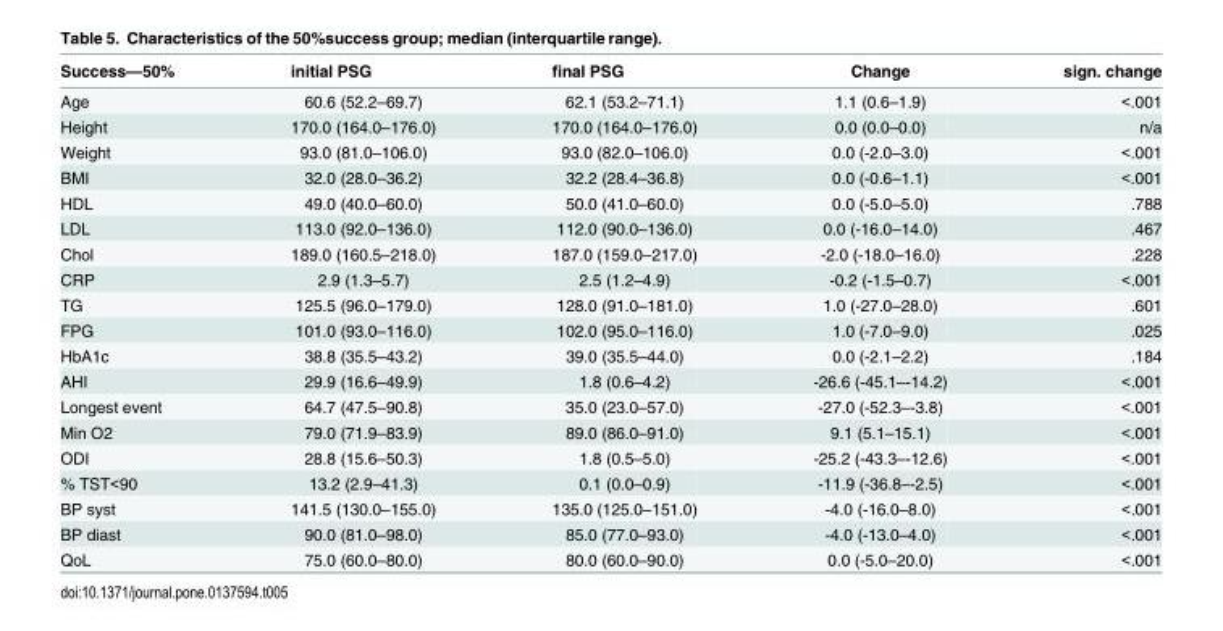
<table><thead><tr><td>Success—50%</td><td>initial PSG</td><td>final PSG</td><td>Change</td><td>sign. change</td></tr></thead><tbody><tr><td>Age</td><td>60.6 (52.2–69.7)</td><td>62.1 (53.2–71.1)</td><td>1.1 (0.6–1.9)</td><td>&lt;.001</td></tr><tr><td>Height</td><td>170.0 (164.0–176.0)</td><td>170.0 (164.0–176.0)</td><td>0.0 (0.0–0.0)</td><td>n/a</td></tr><tr><td>Weight</td><td>93.0 (81.0–106.0)</td><td>93.0 (82.0–106.0)</td><td>0.0 (-2.0–3.0)</td><td>&lt;.001</td></tr><tr><td>BMI</td><td>32.0 (28.0–36.2)</td><td>32.2 (28.4–36.8)</td><td>0.0 (-0.6–1.1)</td><td>&lt;.001</td></tr><tr><td>HDL</td><td>49.0 (40.0–60.0)</td><td>50.0 (41.0–60.0)</td><td>0.0 (-5.0–5.0)</td><td>.788</td></tr><tr><td>LDL</td><td>113.0 (92.0–136.0)</td><td>112.0 (90.0–136.0)</td><td>0.0 (-16.0–14.0)</td><td>.467</td></tr><tr><td>Chol</td><td>189.0 (160.5–218.0)</td><td>187.0 (159.0–217.0)</td><td>-2.0 (-18.0–16.0)</td><td>.228</td></tr><tr><td>CRP</td><td>2.9 (1.3–5.7)</td><td>2.5 (1.2–4.9)</td><td>-0.2 (-1.5–0.7)</td><td>&lt;.001</td></tr><tr><td>TG</td><td>125.5 (96.0–179.0)</td><td>128.0 (91.0–181.0)</td><td>1.0 (-27.0–28.0)</td><td>.601</td></tr><tr><td>FPG</td><td>101.0 (93.0–116.0)</td><td>102.0 (95.0–116.0)</td><td>1.0 (-7.0–9.0)</td><td>.025</td></tr><tr><td>HbA1c</td><td>38.8 (35.5–43.2)</td><td>39.0 (35.5–44.0)</td><td>0.0 (-2.1–2.2)</td><td>.184</td></tr><tr><td>AHI</td><td>29.9 (16.6–49.9)</td><td>1.8 (0.6–4.2)</td><td>-26.6 (-45.1–-14.2)</td><td>&lt;.001</td></tr><tr><td>Longest event</td><td>64.7 (47.5–90.8)</td><td>35.0 (23.0–57.0)</td><td>-27.0 (-52.3–-3.8)</td><td>&lt;.001</td></tr><tr><td>Min O2</td><td>79.0 (71.9–83.9)</td><td>89.0 (86.0–91.0)</td><td>9.1 (5.1–15.1)</td><td>&lt;.001</td></tr><tr><td>ODI</td><td>28.8 (15.6–50.3)</td><td>1.8 (0.5–5.0)</td><td>-25.2 (-43.3–-12.6)</td><td>&lt;.001</td></tr><tr><td>% TST&lt;90</td><td>13.2 (2.9–41.3)</td><td>0.1 (0.0–0.9)</td><td>-11.9 (-36.8–-2.5)</td><td>&lt;.001</td></tr><tr><td>BP syst</td><td>141.5 (130.0–155.0)</td><td>135.0 (125.0–151.0)</td><td>-4.0 (-16.0–8.0)</td><td>&lt;.001</td></tr><tr><td>BP diast</td><td>90.0 (81.0–98.0)</td><td>85.0 (77.0–93.0)</td><td>-4.0 (-13.0–4.0)</td><td>&lt;.001</td></tr><tr><td>QoL</td><td>75.0 (60.0–80.0)</td><td>80.0 (60.0–90.0)</td><td>0.0 (-5.0–20.0)</td><td>&lt;.001</td></tr></tbody></table>